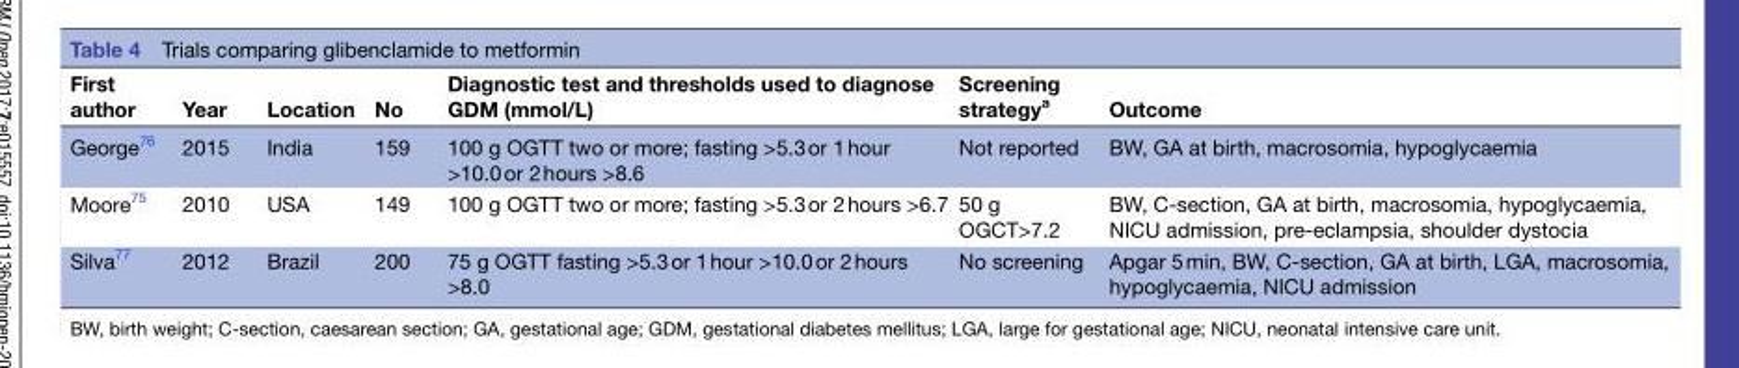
<table><thead><tr><td>First author</td><td>Year</td><td>Location</td><td>No</td><td>Diagnostic test and thresholds used to diagnose GDM (mmol/L)</td><td>Screening strategy<sup>a</sup></td><td>Outcome</td></tr></thead><tbody><tr><td>George<sup>76</sup></td><td>2015</td><td>India</td><td>159</td><td>100 g OGTT two or more; fasting &gt;5.3 or 1 hour &gt;10.0 or 2 hours &gt;8.6</td><td>Not reported</td><td>BW, GA at birth, macrosomia, hypoglycaemia</td></tr><tr><td>Moore<sup>75</sup></td><td>2010</td><td>USA</td><td>149</td><td>100 g OGTT two or more; fasting &gt;5.3 or 2 hours &gt;6.7</td><td>50 g OGCT&gt;7.2</td><td>BW, C-section, GA at birth, macrosomia, hypoglycaemia, NICU admission, pre-eclampsia, shoulder dystocia</td></tr><tr><td>Silva<sup>77</sup></td><td>2012</td><td>Brazil</td><td>200</td><td>75 g OGTT fasting &gt;5.3 or 1 hour &gt;10.0 or 2 hours &gt;8.0</td><td>No screening</td><td>Apgar 5 min, BW, C-section, GA at birth, LGA, macrosomia, hypoglycaemia, NICU admission</td></tr></tbody></table>